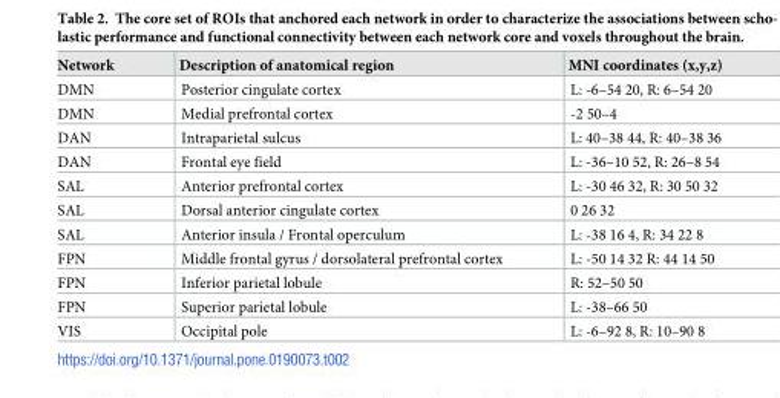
<table><thead><tr><td>Network</td><td>Description of anatomical region</td><td>MNI coordinates (x,y,z)</td></tr></thead><tbody><tr><td>DMN</td><td>Posterior cingulate cortex</td><td>L: -6–54 20, R: 6–54 20</td></tr><tr><td>DMN</td><td>Medial prefrontal cortex</td><td>-2 50–4</td></tr><tr><td>DAN</td><td>Intraparietal sulcus</td><td>L: 40–38 44, R: 40–38 36</td></tr><tr><td>DAN</td><td>Frontal eye field</td><td>L: -36–10 52, R: 26–8 54</td></tr><tr><td>SAL</td><td>Anterior prefrontal cortex</td><td>L: -30 46 32, R: 30 50 32</td></tr><tr><td>SAL</td><td>Dorsal anterior cingulate cortex</td><td>0 26 32</td></tr><tr><td>SAL</td><td>Anterior insula / Frontal operculum</td><td>L: -38 16 4, R: 34 22 8</td></tr><tr><td>FPN</td><td>Middle frontal gyrus / dorsolateral prefrontal cortex</td><td>L: -50 14 32 R: 44 14 50</td></tr><tr><td>FPN</td><td>Inferior parietal lobule</td><td>R: 52–50 50</td></tr><tr><td>FPN</td><td>Superior parietal lobule</td><td>L: -38–66 50</td></tr><tr><td>VIS</td><td>Occipital pole</td><td>L: -6–92 8, R: 10–90 8</td></tr></tbody></table>